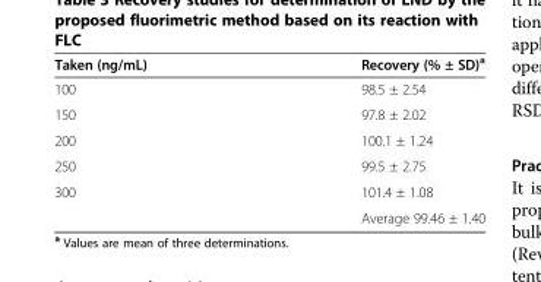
<table><thead><tr><td>Taken (ng/mL)</td><td>Recovery (% ± SD)<sup>a</sup></td></tr></thead><tbody><tr><td>100</td><td>98.5 ± 2.54</td></tr><tr><td>150</td><td>97.8 ± 2.02</td></tr><tr><td>200</td><td>100.1 ± 1.24</td></tr><tr><td>250</td><td>99.5 ± 2.75</td></tr><tr><td rowspan="2">300</td><td>101.4 ± 1.08</td></tr><tr><td>Average 99.46 ± 1.40</td></tr></tbody></table>